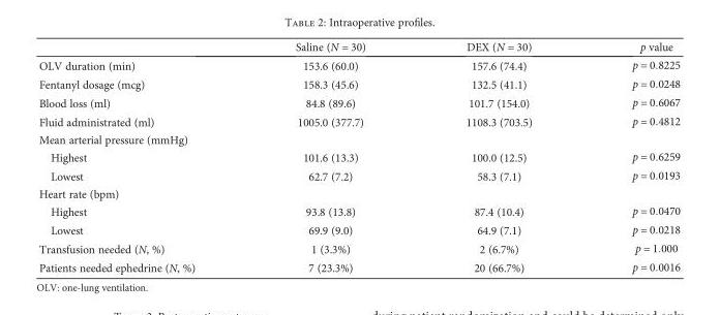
<table><thead><tr><td></td><td>Saline (N = 30)</td><td>DEX (N = 30)</td><td>p value</td></tr></thead><tbody><tr><td>OLV duration (min)</td><td>153.6 (60.0)</td><td>157.6 (74.4)</td><td>p = 0 8225</td></tr><tr><td>Fentanyl dosage (mcg)</td><td>158.3 (45.6)</td><td>132.5 (41.1)</td><td>p = 0 0248</td></tr><tr><td>Blood loss (ml)</td><td>84.8 (89.6)</td><td>101.7 (154.0)</td><td>p = 0 6067</td></tr><tr><td>Fluid administrated (ml)</td><td>1005.0 (377.7)</td><td>1108.3 (703.5)</td><td>p = 0 4812</td></tr><tr><td colspan="4">Mean arterial pressure (mmHg)</td></tr><tr><td>Highest</td><td>101.6 (13.3)</td><td>100.0 (12.5)</td><td>p = 0 6259</td></tr><tr><td>Lowest</td><td>62.7 (7.2)</td><td>58.3 (7.1)</td><td>p = 0 0193</td></tr><tr><td colspan="4">Heart rate (bpm)</td></tr><tr><td>Highest</td><td>93.8 (13.8)</td><td>87.4 (10.4)</td><td>p = 0 0470</td></tr><tr><td>Lowest</td><td>69.9 (9.0)</td><td>64.9 (7.1)</td><td>p = 0 0218</td></tr><tr><td>Transfusion needed (N, %)</td><td>1 (3.3%)</td><td>2 (6.7%)</td><td>p = 1 000</td></tr><tr><td>Patients needed ephedrine (N, %)</td><td>7 (23.3%)</td><td>20 (66.7%)</td><td>p = 0 0016</td></tr></tbody></table>